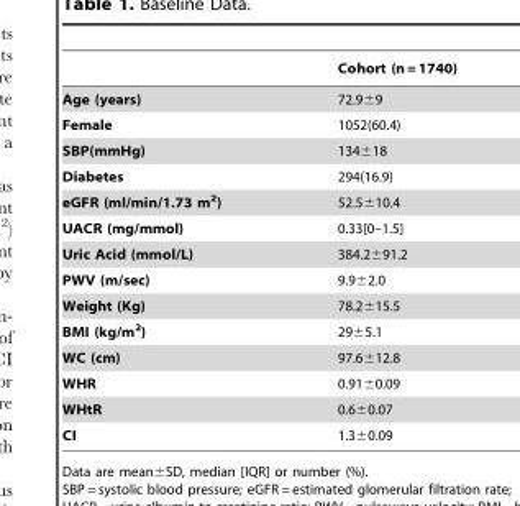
<table><thead><tr><td></td><td>Cohort (n = 1740)</td></tr></thead><tbody><tr><td>Age (years)</td><td>72.9±9</td></tr><tr><td>Female</td><td>1052(60.4)</td></tr><tr><td>SBP(mmHg)</td><td>134±18</td></tr><tr><td>Diabetes</td><td>294(16.9)</td></tr><tr><td>eGFR (ml/min/1.73 m<sup>2</sup>)</td><td>52.5±10.4</td></tr><tr><td>UACR (mg/mmol)</td><td>0.33[0–1.5]</td></tr><tr><td>Uric Acid (mmol/L)</td><td>384.2±91.2</td></tr><tr><td>PWV (m/sec)</td><td>9.9±2.0</td></tr><tr><td>Weight (Kg)</td><td>78.2±15.5</td></tr><tr><td>BMI (kg/m<sup>2</sup>)</td><td>29±5.1</td></tr><tr><td>WC (cm)</td><td>97.6±12.8</td></tr><tr><td>WHR</td><td>0.91±0.09</td></tr><tr><td>WHtR</td><td>0.6±0.07</td></tr><tr><td>CI</td><td>1.3±0.09</td></tr></tbody></table>